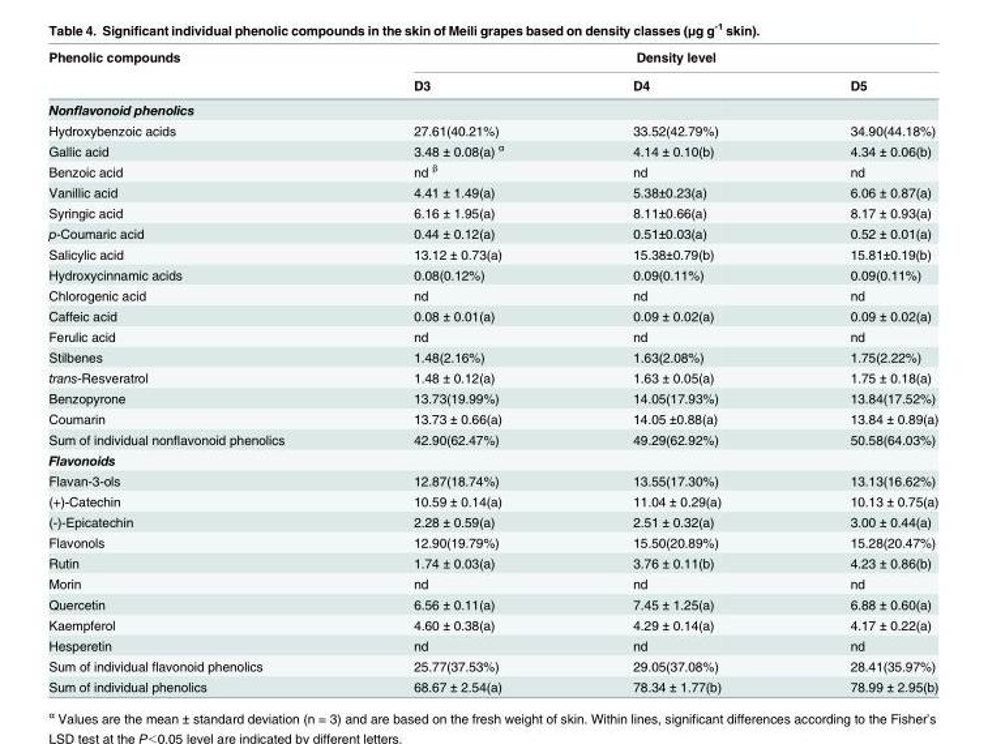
<table><thead><tr><td rowspan="2">Phenolic compounds</td><td colspan="3">Density level</td></tr><tr><td>D3</td><td>D4</td><td>D5</td></tr></thead><tbody><tr><td colspan="4">Nonflavonoid phenolics</td></tr><tr><td>Hydroxybenzoic acids</td><td>27.61(40.21%)</td><td>33.52(42.79%)</td><td>34.90(44.18%)</td></tr><tr><td>Gallic acid</td><td>3.48 ± 0.08(a) <sup>α</sup></td><td>4.14 ± 0.10(b)</td><td>4.34 ± 0.06(b)</td></tr><tr><td>Benzoic acid</td><td>nd <sup>β</sup></td><td>nd</td><td>nd</td></tr><tr><td>Vanillic acid</td><td>4.41 ± 1.49(a)</td><td>5.38±0.23(a)</td><td>6.06 ± 0.87(a)</td></tr><tr><td>Syringic acid</td><td>6.16 ± 1.95(a)</td><td>8.11±0.66(a)</td><td>8.17 ± 0.93(a)</td></tr><tr><td>p-Coumaric acid</td><td>0.44 ± 0.12(a)</td><td>0.51±0.03(a)</td><td>0.52 ± 0.01(a)</td></tr><tr><td>Salicylic acid</td><td>13.12 ± 0.73(a)</td><td>15.38±0.79(b)</td><td>15.81±0.19(b)</td></tr><tr><td>Hydroxycinnamic acids</td><td>0.08(0.12%)</td><td>0.09(0.11%)</td><td>0.09(0.11%)</td></tr><tr><td>Chlorogenic acid</td><td>nd</td><td>nd</td><td>nd</td></tr><tr><td>Caffeic acid</td><td>0.08 ± 0.01(a)</td><td>0.09 ± 0.02(a)</td><td>0.09 ± 0.02(a)</td></tr><tr><td>Ferulic acid</td><td>nd</td><td>nd</td><td>nd</td></tr><tr><td>Stilbenes</td><td>1.48(2.16%)</td><td>1.63(2.08%)</td><td>1.75(2.22%)</td></tr><tr><td>trans-Resveratrol</td><td>1.48 ± 0.12(a)</td><td>1.63 ± 0.05(a)</td><td>1.75 ± 0.18(a)</td></tr><tr><td>Benzopyrone</td><td>13.73(19.99%)</td><td>14.05(17.93%)</td><td>13.84(17.52%)</td></tr><tr><td>Coumarin</td><td>13.73 ± 0.66(a)</td><td>14.05 ±0.88(a)</td><td>13.84 ± 0.89(a)</td></tr><tr><td>Sum of individual nonflavonoid phenolics</td><td>42.90(62.47%)</td><td>49.29(62.92%)</td><td>50.58(64.03%)</td></tr><tr><td colspan="4">Flavonoids</td></tr><tr><td>Flavan-3-ols</td><td>12.87(18.74%)</td><td>13.55(17.30%)</td><td>13.13(16.62%)</td></tr><tr><td>(+)-Catechin</td><td>10.59 ± 0.14(a)</td><td>11.04 ± 0.29(a)</td><td>10.13 ± 0.75(a)</td></tr><tr><td>(-)-Epicatechin</td><td>2.28 ± 0.59(a)</td><td>2.51 ± 0.32(a)</td><td>3.00 ± 0.44(a)</td></tr><tr><td>Flavonols</td><td>12.90(19.79%)</td><td>15.50(20.89%)</td><td>15.28(20.47%)</td></tr><tr><td>Rutin</td><td>1.74 ± 0.03(a)</td><td>3.76 ± 0.11(b)</td><td>4.23 ± 0.86(b)</td></tr><tr><td>Morin</td><td>nd</td><td>nd</td><td>nd</td></tr><tr><td>Quercetin</td><td>6.56 ± 0.11(a)</td><td>7.45 ± 1.25(a)</td><td>6.88 ± 0.60(a)</td></tr><tr><td>Kaempferol</td><td>4.60 ± 0.38(a)</td><td>4.29 ± 0.14(a)</td><td>4.17 ± 0.22(a)</td></tr><tr><td>Hesperetin</td><td>nd</td><td>nd</td><td>nd</td></tr><tr><td>Sum of individual flavonoid phenolics</td><td>25.77(37.53%)</td><td>29.05(37.08%)</td><td>28.41(35.97%)</td></tr><tr><td>Sum of individual phenolics</td><td>68.67 ± 2.54(a)</td><td>78.34 ± 1.77(b)</td><td>78.99 ± 2.95(b)</td></tr></tbody></table>